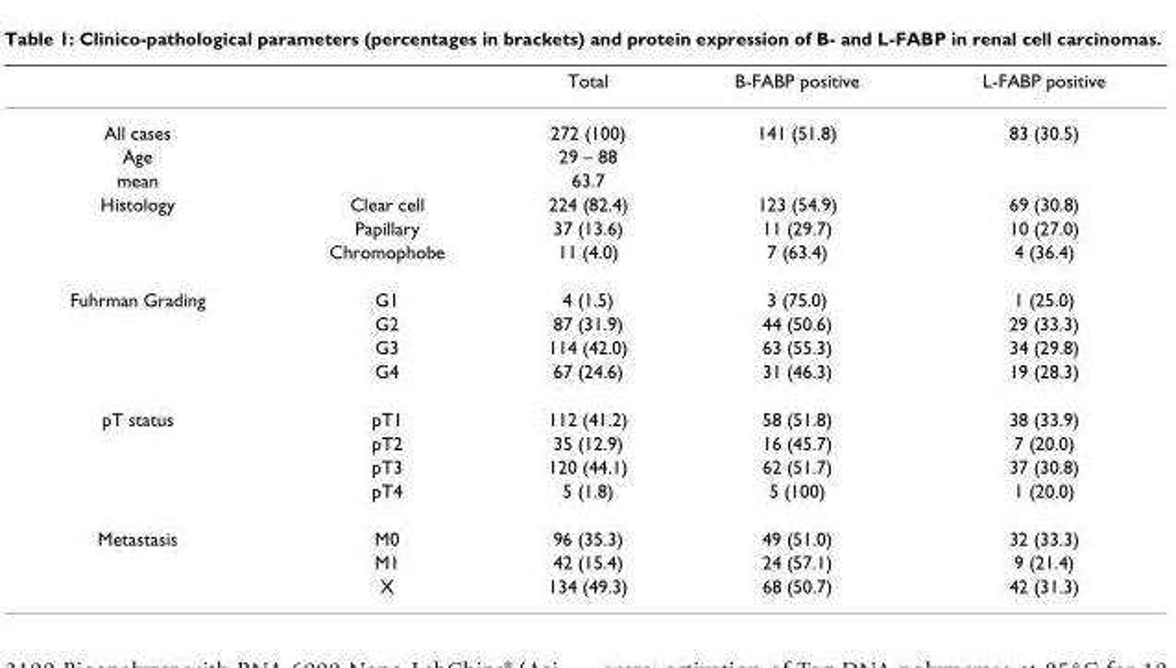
<table><thead><tr><td></td><td></td><td>Total</td><td>B-FABP positive</td><td>L-FABP positive</td></tr></thead><tbody><tr><td>All cases</td><td></td><td>272 (100)</td><td>141 (51.8)</td><td>83 (30.5)</td></tr><tr><td>Age</td><td></td><td>29 – 88</td><td></td><td></td></tr><tr><td>mean</td><td></td><td>63.7</td><td></td><td></td></tr><tr><td rowspan="3">Histology</td><td>Clear cell</td><td>224 (82.4)</td><td>123 (54.9)</td><td>69 (30.8)</td></tr><tr><td>Papillary</td><td>37 (13.6)</td><td>11 (29.7)</td><td>10 (27.0)</td></tr><tr><td>Chromophobe</td><td>11 (4.0)</td><td>7 (63.4)</td><td>4 (36.4)</td></tr><tr><td rowspan="4">Fuhrman Grading</td><td>G1</td><td>4 (1.5)</td><td>3 (75.0)</td><td>1 (25.0)</td></tr><tr><td>G2</td><td>87 (31.9)</td><td>44 (50.6)</td><td>29 (33.3)</td></tr><tr><td>G3</td><td>114 (42.0)</td><td>63 (55.3)</td><td>34 (29.8)</td></tr><tr><td>G4</td><td>67 (24.6)</td><td>31 (46.3)</td><td>19 (28.3)</td></tr><tr><td rowspan="4">pT status</td><td>pT1</td><td>112 (41.2)</td><td>58 (51.8)</td><td>38 (33.9)</td></tr><tr><td>pT2</td><td>35 (12.9)</td><td>16 (45.7)</td><td>7 (20.0)</td></tr><tr><td>pT3</td><td>120 (44.1)</td><td>62 (51.7)</td><td>37 (30.8)</td></tr><tr><td>pT4</td><td>5 (1.8)</td><td>5 (100)</td><td>1 (20.0)</td></tr><tr><td rowspan="3">Metastasis</td><td>M0</td><td>96 (35.3)</td><td>49 (51.0)</td><td>32 (33.3)</td></tr><tr><td>M1</td><td>42 (15.4)</td><td>24 (57.1)</td><td>9 (21.4)</td></tr><tr><td>X</td><td>134 (49.3)</td><td>68 (50.7)</td><td>42 (31.3)</td></tr></tbody></table>